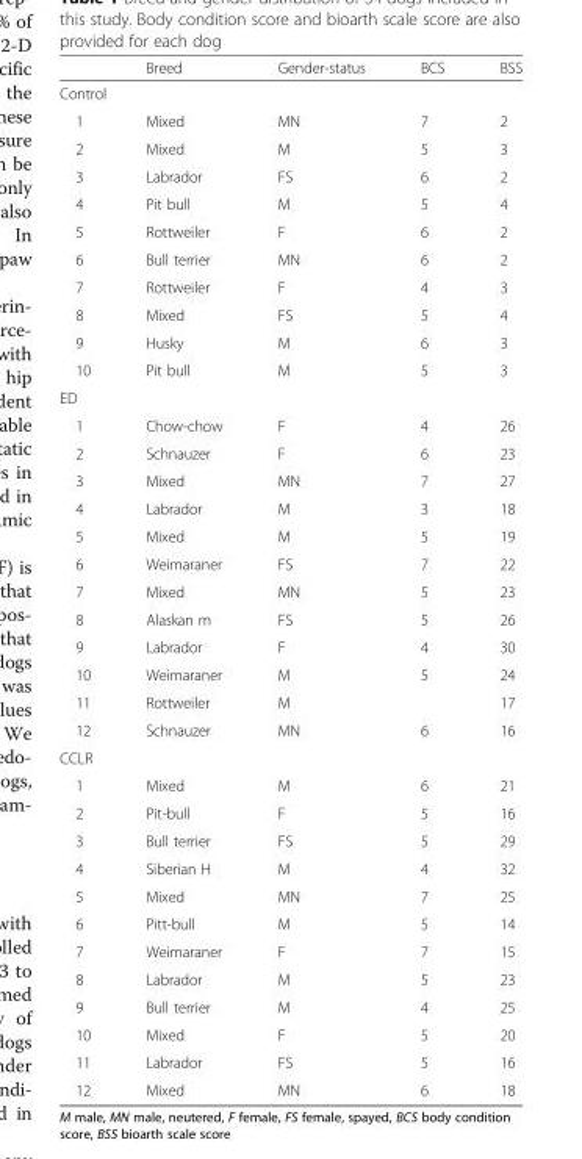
<table><thead><tr><td></td><td>Breed</td><td>Gender-status</td><td>BCS</td><td>BSS</td></tr></thead><tbody><tr><td colspan="5">Control</td></tr><tr><td>1</td><td>Mixed</td><td>MN</td><td>7</td><td>2</td></tr><tr><td>2</td><td>Mixed</td><td>M</td><td>5</td><td>3</td></tr><tr><td>3</td><td>Labrador</td><td>FS</td><td>6</td><td>2</td></tr><tr><td>4</td><td>Pit bull</td><td>M</td><td>5</td><td>4</td></tr><tr><td>5</td><td>Rottweiler</td><td>F</td><td>6</td><td>2</td></tr><tr><td>6</td><td>Bull terrier</td><td>MN</td><td>6</td><td>2</td></tr><tr><td>7</td><td>Rottweiler</td><td>F</td><td>4</td><td>3</td></tr><tr><td>8</td><td>Mixed</td><td>FS</td><td>5</td><td>4</td></tr><tr><td>9</td><td>Husky</td><td>M</td><td>6</td><td>3</td></tr><tr><td>10</td><td>Pit bull</td><td>M</td><td>5</td><td>3</td></tr><tr><td colspan="5">ED</td></tr><tr><td>1</td><td>Chow-chow</td><td>F</td><td>4</td><td>26</td></tr><tr><td>2</td><td>Schnauzer</td><td>F</td><td>6</td><td>23</td></tr><tr><td>3</td><td>Mixed</td><td>MN</td><td>7</td><td>27</td></tr><tr><td>4</td><td>Labrador</td><td>M</td><td>3</td><td>18</td></tr><tr><td>5</td><td>Mixed</td><td>M</td><td>5</td><td>19</td></tr><tr><td>6</td><td>Weimaraner</td><td>FS</td><td>7</td><td>22</td></tr><tr><td>7</td><td>Mixed</td><td>MN</td><td>5</td><td>23</td></tr><tr><td>8</td><td>Alaskan m</td><td>FS</td><td>5</td><td>26</td></tr><tr><td>9</td><td>Labrador</td><td>F</td><td>4</td><td>30</td></tr><tr><td>10</td><td>Weimaraner</td><td>M</td><td>5</td><td>24</td></tr><tr><td>11</td><td>Rottweiler</td><td>M</td><td></td><td>17</td></tr><tr><td>12</td><td>Schnauzer</td><td>MN</td><td>6</td><td>16</td></tr><tr><td colspan="5">CCLR</td></tr><tr><td>1</td><td>Mixed</td><td>M</td><td>6</td><td>21</td></tr><tr><td>2</td><td>Pit-bull</td><td>F</td><td>5</td><td>16</td></tr><tr><td>3</td><td>Bull terrier</td><td>FS</td><td>5</td><td>29</td></tr><tr><td>4</td><td>Siberian H</td><td>M</td><td>4</td><td>32</td></tr><tr><td>5</td><td>Mixed</td><td>MN</td><td>7</td><td>25</td></tr><tr><td>6</td><td>Pitt-bull</td><td>M</td><td>5</td><td>14</td></tr><tr><td>7</td><td>Weimaraner</td><td>F</td><td>7</td><td>15</td></tr><tr><td>8</td><td>Labrador</td><td>M</td><td>5</td><td>23</td></tr><tr><td>9</td><td>Bull terrier</td><td>M</td><td>4</td><td>25</td></tr><tr><td>10</td><td>Mixed</td><td>F</td><td>5</td><td>20</td></tr><tr><td>11</td><td>Labrador</td><td>FS</td><td>5</td><td>16</td></tr><tr><td>12</td><td>Mixed</td><td>MN</td><td>6</td><td>18</td></tr></tbody></table>